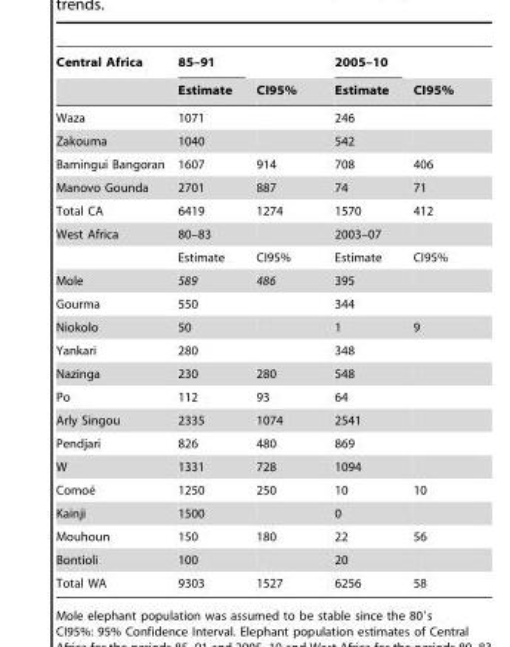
<table><thead><tr><td rowspan="2">Central Africa</td><td rowspan="2">85–91 Estimate</td><td rowspan="2">CI95%</td><td rowspan="2">2005–10 Estimate</td><td rowspan="2">CI95%</td></tr><tr></tr></thead><tbody><tr><td>Waza</td><td>1071</td><td></td><td>246</td><td></td></tr><tr><td>Zakouma</td><td>1040</td><td></td><td>542</td><td></td></tr><tr><td>Bamingui Bangoran</td><td>1607</td><td>914</td><td>708</td><td>406</td></tr><tr><td>Manovo Gounda</td><td>2701</td><td>887</td><td>74</td><td>71</td></tr><tr><td>Total CA</td><td>6419</td><td>1274</td><td>1570</td><td>412</td></tr><tr><td rowspan="2">West Africa</td><td>80–83</td><td></td><td>2003–07</td><td></td></tr><tr><td>Estimate</td><td>CI95%</td><td>Estimate</td><td>CI95%</td></tr><tr><td>Mole</td><td>589</td><td>486</td><td>395</td><td></td></tr><tr><td>Gourma</td><td>550</td><td></td><td>344</td><td></td></tr><tr><td>Niokolo</td><td>50</td><td></td><td>1</td><td>9</td></tr><tr><td>Yankari</td><td>280</td><td></td><td>348</td><td></td></tr><tr><td>Nazinga</td><td>230</td><td>280</td><td>548</td><td></td></tr><tr><td>Po</td><td>112</td><td>93</td><td>64</td><td></td></tr><tr><td>Arly Singou</td><td>2335</td><td>1074</td><td>2541</td><td></td></tr><tr><td>Pendjari</td><td>826</td><td>480</td><td>869</td><td></td></tr><tr><td>W</td><td>1331</td><td>728</td><td>1094</td><td></td></tr><tr><td>Comoe´</td><td>1250</td><td>250</td><td>10</td><td>10</td></tr><tr><td>Kainji</td><td>1500</td><td></td><td>0</td><td></td></tr><tr><td>Mouhoun</td><td>150</td><td>180</td><td>22</td><td>56</td></tr><tr><td>Bontioli</td><td>100</td><td></td><td>20</td><td></td></tr><tr><td>Total WA</td><td>9303</td><td>1527</td><td>6256</td><td>58</td></tr></tbody></table>